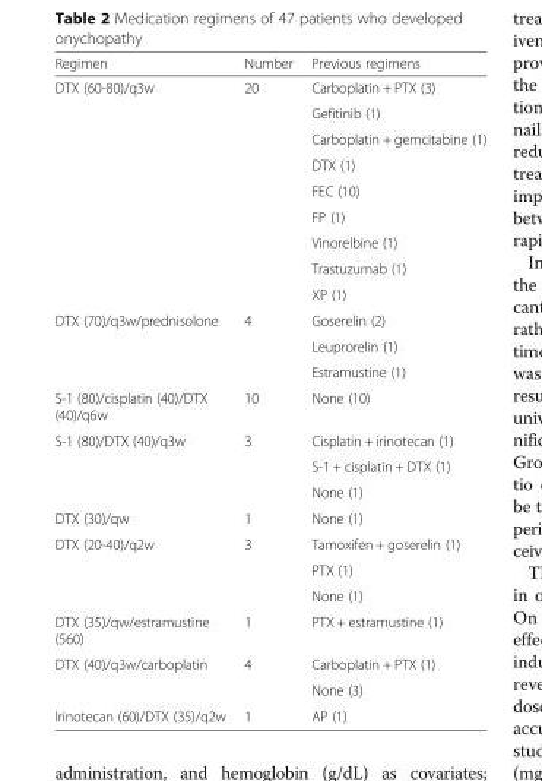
<table><thead><tr><td>Regimen</td><td>Number</td><td>Previous regimens</td></tr></thead><tbody><tr><td rowspan="9">DTX (60-80)/q3w</td><td rowspan="9">20</td><td>Carboplatin + PTX (3)</td></tr><tr><td>Gefitinib (1)</td></tr><tr><td>Carboplatin + gemcitabine (1)</td></tr><tr><td>DTX (1)</td></tr><tr><td>FEC (10)</td></tr><tr><td>FP (1)</td></tr><tr><td>Vinorelbine (1)</td></tr><tr><td>Trastuzumab (1)</td></tr><tr><td>XP (1)</td></tr><tr><td rowspan="3">DTX (70)/q3w/prednisolone</td><td rowspan="3">4</td><td>Goserelin (2)</td></tr><tr><td>Leuprorelin (1)</td></tr><tr><td>Estramustine (1)</td></tr><tr><td>S-1 (80)/cisplatin (40)/DTX (40)/q6w</td><td>10</td><td>None (10)</td></tr><tr><td rowspan="3">S-1 (80)/DTX (40)/q3w</td><td rowspan="3">3</td><td>Cisplatin + irinotecan (1)</td></tr><tr><td>S-1 + cisplatin + DTX (1)</td></tr><tr><td>None (1)</td></tr><tr><td>DTX (30)/qw</td><td>1</td><td>None (1)</td></tr><tr><td rowspan="3">DTX (20-40)/q2w</td><td rowspan="3">3</td><td>Tamoxifen + goserelin (1)</td></tr><tr><td>PTX (1)</td></tr><tr><td>None (1)</td></tr><tr><td>DTX (35)/qw/estramustine (560)</td><td>1</td><td>PTX + estramustine (1)</td></tr><tr><td rowspan="2">DTX (40)/q3w/carboplatin</td><td rowspan="2">4</td><td>Carboplatin + PTX (1)</td></tr><tr><td>None (3)</td></tr><tr><td>Irinotecan (60)/DTX (35)/q2w</td><td>1</td><td>AP (1)</td></tr></tbody></table>